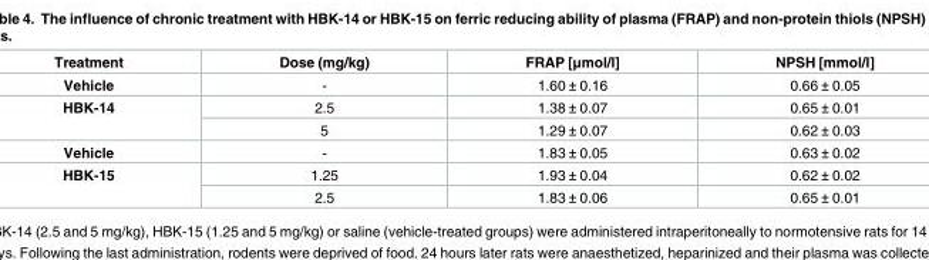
<table><thead><tr><td>Treatment</td><td>Dose (mg/kg)</td><td>FRAP [μmol/l]</td><td>NPSH [mmol/l]</td></tr></thead><tbody><tr><td>Vehicle</td><td>-</td><td>1.60 ± 0.16</td><td>0.66 ± 0.05</td></tr><tr><td rowspan="2">HBK-14</td><td>2.5</td><td>1.38 ± 0.07</td><td>0.65 ± 0.01</td></tr><tr><td>5</td><td>1.29 ± 0.07</td><td>0.62 ± 0.03</td></tr><tr><td>Vehicle</td><td>-</td><td>1.83 ± 0.05</td><td>0.63 ± 0.02</td></tr><tr><td rowspan="2">HBK-15</td><td>1.25</td><td>1.93 ± 0.04</td><td>0.62 ± 0.02</td></tr><tr><td>2.5</td><td>1.83 ± 0.06</td><td>0.65 ± 0.01</td></tr></tbody></table>